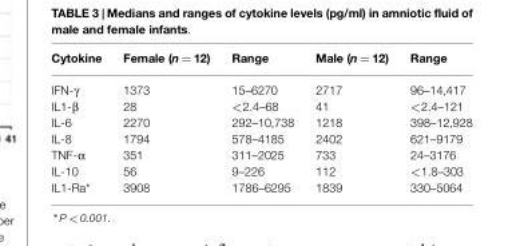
<table><thead><tr><td>Cytokine</td><td>Female (n = 12)</td><td>Range</td><td>Male (n = 12)</td><td>Range</td></tr></thead><tbody><tr><td>IFN-γ</td><td>1373</td><td>15–6270</td><td>2717</td><td>96–14,417</td></tr><tr><td>IL1-β</td><td>28</td><td>&lt;2.4–68</td><td>41</td><td>&lt;2.4–121</td></tr><tr><td>IL-6</td><td>2270</td><td>292–10,738</td><td>1218</td><td>398–12,928</td></tr><tr><td>IL-8</td><td>1794</td><td>578–4185</td><td>2402</td><td>621–9179</td></tr><tr><td>TNF-α</td><td>351</td><td>311–2025</td><td>733</td><td>24–3176</td></tr><tr><td>IL-10</td><td>56</td><td>9–226</td><td>112</td><td>&lt;1.8–303</td></tr><tr><td>IL1-Ra*</td><td>3908</td><td>1786–6295</td><td>1839</td><td>330–5064</td></tr></tbody></table>